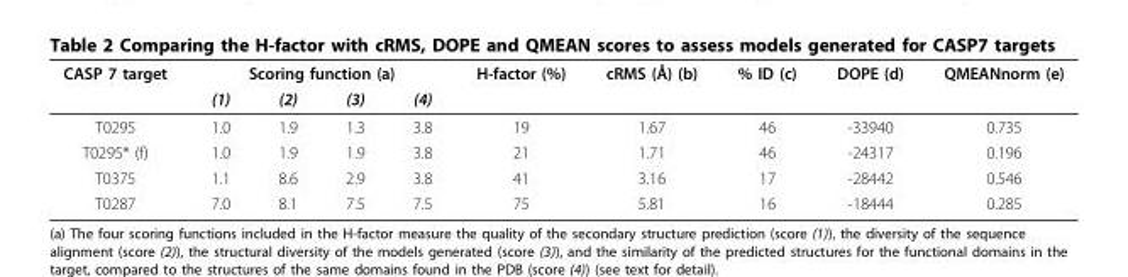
<table><thead><tr><td rowspan="2">CASP 7 target</td><td colspan="4">Scoring function (a)</td><td rowspan="2">H-factor (%)</td><td rowspan="2">cRMS (Å) (b)</td><td rowspan="2">% ID (c)</td><td rowspan="2">DOPE (d)</td><td rowspan="2">QMEANnorm (e)</td></tr><tr><td>(1)</td><td>(2)</td><td>(3)</td><td>(4)</td></tr></thead><tbody><tr><td>T0295</td><td>1.0</td><td>1.9</td><td>1.3</td><td>3.8</td><td>19</td><td>1.67</td><td>46</td><td>-33940</td><td>0.735</td></tr><tr><td>T0295* (f)</td><td>1.0</td><td>1.9</td><td>1.9</td><td>3.8</td><td>21</td><td>1.71</td><td>46</td><td>-24317</td><td>0.196</td></tr><tr><td>T0375</td><td>1.1</td><td>8.6</td><td>2.9</td><td>3.8</td><td>41</td><td>3.16</td><td>17</td><td>-28442</td><td>0.546</td></tr><tr><td>T0287</td><td>7.0</td><td>8.1</td><td>7.5</td><td>7.5</td><td>75</td><td>5.81</td><td>16</td><td>-18444</td><td>0.285</td></tr></tbody></table>